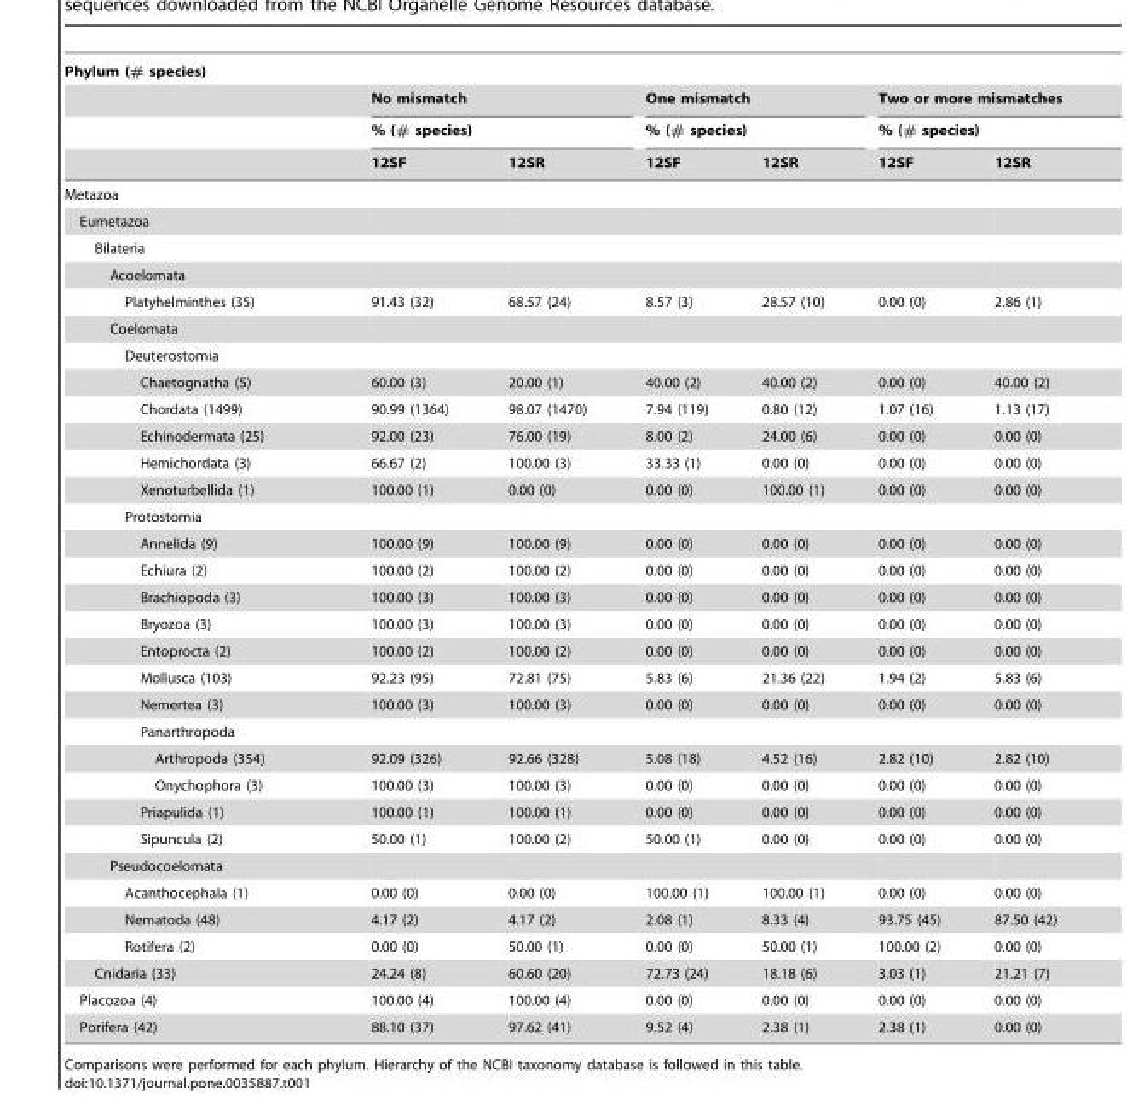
<table><thead><tr><td rowspan="4">Phylum (# species)</td><td></td><td></td><td></td><td></td><td></td><td></td></tr><tr><td rowspan="2" colspan="2">No mismatch % (# species)</td><td rowspan="2" colspan="2">One mismatch % (# species)</td><td rowspan="2" colspan="2">Two or more mismatches % (# species)</td></tr><tr></tr><tr><td>12SF</td><td>12SR</td><td>12SF</td><td>12SR</td><td>12SF</td><td>12SR</td></tr></thead><tbody><tr><td colspan="7">Metazoa</td></tr><tr><td colspan="7">Eumetazoa</td></tr><tr><td colspan="7">Bilateria</td></tr><tr><td colspan="7">Acoelomata</td></tr><tr><td>Platyhelminthes (35)</td><td>91.43 (32)</td><td>68.57 (24)</td><td>8.57 (3)</td><td>28.57 (10)</td><td>0.00 (0)</td><td>2.86 (1)</td></tr><tr><td colspan="7">Coelomata</td></tr><tr><td colspan="7">Deuterostomia</td></tr><tr><td>Chaetognatha (5)</td><td>60.00 (3)</td><td>20.00 (1)</td><td>40.00 (2)</td><td>40.00 (2)</td><td>0.00 (0)</td><td>40.00 (2)</td></tr><tr><td>Chordata (1499)</td><td>90.99 (1364)</td><td>98.07 (1470)</td><td>7.94 (119)</td><td>0.80 (12)</td><td>1.07 (16)</td><td>1.13 (17)</td></tr><tr><td>Echinodermata (25)</td><td>92.00 (23)</td><td>76.00 (19)</td><td>8.00 (2)</td><td>24.00 (6)</td><td>0.00 (0)</td><td>0.00 (0)</td></tr><tr><td>Hemichordata (3)</td><td>66.67 (2)</td><td>100.00 (3)</td><td>33.33 (1)</td><td>0.00 (0)</td><td>0.00 (0)</td><td>0.00 (0)</td></tr><tr><td>Xenoturbellida (1)</td><td>100.00 (1)</td><td>0.00 (0)</td><td>0.00 (0)</td><td>100.00 (1)</td><td>0.00 (0)</td><td>0.00 (0)</td></tr><tr><td colspan="7">Protostomia</td></tr><tr><td>Annelida (9)</td><td>100.00 (9)</td><td>100.00 (9)</td><td>0.00 (0)</td><td>0.00 (0)</td><td>0.00 (0)</td><td>0.00 (0)</td></tr><tr><td>Echiura (2)</td><td>100.00 (2)</td><td>100.00 (2)</td><td>0.00 (0)</td><td>0.00 (0)</td><td>0.00 (0)</td><td>0.00 (0)</td></tr><tr><td>Brachiopoda (3)</td><td>100.00 (3)</td><td>100.00 (3)</td><td>0.00 (0)</td><td>0.00 (0)</td><td>0.00 (0)</td><td>0.00 (0)</td></tr><tr><td>Bryozoa (3)</td><td>100.00 (3)</td><td>100.00 (3)</td><td>0.00 (0)</td><td>0.00 (0)</td><td>0.00 (0)</td><td>0.00 (0)</td></tr><tr><td>Entoprocta (2)</td><td>100.00 (2)</td><td>100.00 (2)</td><td>0.00 (0)</td><td>0.00 (0)</td><td>0.00 (0)</td><td>0.00 (0)</td></tr><tr><td>Mollusca (103)</td><td>92.23 (95)</td><td>72.81 (75)</td><td>5.83 (6)</td><td>21.36 (22)</td><td>1.94 (2)</td><td>5.83 (6)</td></tr><tr><td>Nemertea (3)</td><td>100.00 (3)</td><td>100.00 (3)</td><td>0.00 (0)</td><td>0.00 (0)</td><td>0.00 (0)</td><td>0.00 (0)</td></tr><tr><td colspan="7">Panarthropoda</td></tr><tr><td>Arthropoda (354)</td><td>92.09 (326)</td><td>92.66 (328)</td><td>5.08 (18)</td><td>4.52 (16)</td><td>2.82 (10)</td><td>2.82 (10)</td></tr><tr><td>Onychophora (3)</td><td>100.00 (3)</td><td>100.00 (3)</td><td>0.00 (0)</td><td>0.00 (0)</td><td>0.00 (0)</td><td>0.00 (0)</td></tr><tr><td>Priapulida (1)</td><td>100.00 (1)</td><td>100.00 (1)</td><td>0.00 (0)</td><td>0.00 (0)</td><td>0.00 (0)</td><td>0.00 (0)</td></tr><tr><td>Sipuncula (2)</td><td>50.00 (1)</td><td>100.00 (2)</td><td>50.00 (1)</td><td>0.00 (0)</td><td>0.00 (0)</td><td>0.00 (0)</td></tr><tr><td colspan="7">Pseudocoelomata</td></tr><tr><td>Acanthocephala (1)</td><td>0.00 (0)</td><td>0.00 (0)</td><td>100.00 (1)</td><td>100.00 (1)</td><td>0.00 (0)</td><td>0.00 (0)</td></tr><tr><td>Nematoda (48)</td><td>4.17 (2)</td><td>4.17 (2)</td><td>2.08 (1)</td><td>8.33 (4)</td><td>93.75 (45)</td><td>87.50 (42)</td></tr><tr><td>Rotifera (2)</td><td>0.00 (0)</td><td>50.00 (1)</td><td>0.00 (0)</td><td>50.00 (1)</td><td>100.00 (2)</td><td>0.00 (0)</td></tr><tr><td>Cnidaria (33)</td><td>24.24 (8)</td><td>60.60 (20)</td><td>72.73 (24)</td><td>18.18 (6)</td><td>3.03 (1)</td><td>21.21 (7)</td></tr><tr><td>Placozoa (4)</td><td>100.00 (4)</td><td>100.00 (4)</td><td>0.00 (0)</td><td>0.00 (0)</td><td>0.00 (0)</td><td>0.00 (0)</td></tr><tr><td>Porifera (42)</td><td>88.10 (37)</td><td>97.62 (41)</td><td>9.52 (4)</td><td>2.38 (1)</td><td>2.38 (1)</td><td>0.00 (0)</td></tr></tbody></table>